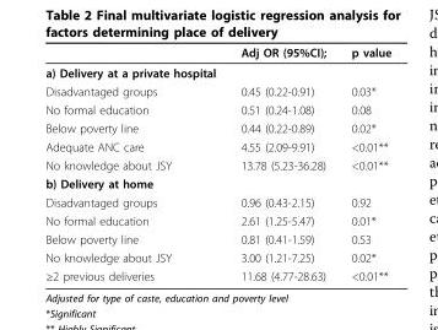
<table><thead><tr><td></td><td>Adj OR (95%CI);</td><td>p value</td></tr></thead><tbody><tr><td colspan="3">a) Delivery at a private hospital</td></tr><tr><td>Disadvantaged groups</td><td>0.45 (0.22-0.91)</td><td>0.03*</td></tr><tr><td>No formal education</td><td>0.51 (0.24-1.08)</td><td>0.08</td></tr><tr><td>Below poverty line</td><td>0.44 (0.22-0.89)</td><td>0.02*</td></tr><tr><td>Adequate ANC care</td><td>4.55 (2.09-9.91)</td><td>&lt;0.01**</td></tr><tr><td>No knowledge about JSY</td><td>13.78 (5.23-36.28)</td><td>&lt;0.01**</td></tr><tr><td colspan="3">b) Delivery at home</td></tr><tr><td>Disadvantaged groups</td><td>0.96 (0.43-2.15)</td><td>0.92</td></tr><tr><td>No formal education</td><td>2.61 (1.25-5.47)</td><td>0.01*</td></tr><tr><td>Below poverty line</td><td>0.81 (0.41-1.59)</td><td>0.53</td></tr><tr><td>No knowledge about JSY</td><td>3.00 (1.21-7.25)</td><td>0.02*</td></tr><tr><td>≥2 previous deliveries</td><td>11.68 (4.77-28.63)</td><td>&lt;0.01**</td></tr></tbody></table>